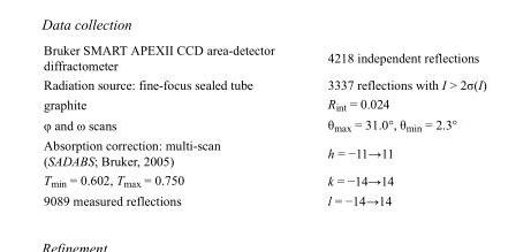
<table><tbody><tr><td>Bruker SMART APEXII CCD area-detector diffractometer</td><td>4218 independent reflections</td></tr><tr><td>Radiation source: fine-focus sealed tube</td><td>3337 reflections with I &gt; 2σ(I)</td></tr><tr><td>graphite</td><td>R<sub>int</sub> = 0.024</td></tr><tr><td>φ and ω scans</td><td>θ<sub>max</sub> = 31.0°, θ<sub>min</sub> = 2.3°</td></tr><tr><td>Absorption correction: multi-scan (SADABS; Bruker, 2005)</td><td>h = −11→11</td></tr><tr><td>T<sub>min</sub> = 0.602, T<sub>max</sub> = 0.750</td><td>k = −14→14</td></tr><tr><td>9089 measured reflections</td><td>l = −14→14</td></tr></tbody></table>